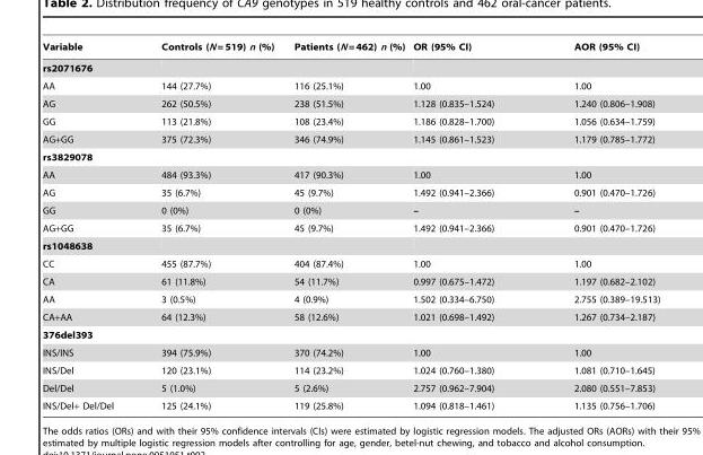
<table><thead><tr><td>Variable</td><td>Controls (N = 519) n (%)</td><td>Patients (N = 462) n (%)</td><td>OR (95% CI)</td><td>AOR (95% CI)</td></tr></thead><tbody><tr><td colspan="5">rs2071676</td></tr><tr><td>AA</td><td>144 (27.7%)</td><td>116 (25.1%)</td><td>1.00</td><td>1.00</td></tr><tr><td>AG</td><td>262 (50.5%)</td><td>238 (51.5%)</td><td>1.128 (0.835–1.524)</td><td>1.240 (0.806–1.908)</td></tr><tr><td>GG</td><td>113 (21.8%)</td><td>108 (23.4%)</td><td>1.186 (0.828–1.700)</td><td>1.056 (0.634–1.759)</td></tr><tr><td>AG+GG</td><td>375 (72.3%)</td><td>346 (74.9%)</td><td>1.145 (0.861–1.523)</td><td>1.179 (0.785–1.772)</td></tr><tr><td colspan="5">rs3829078</td></tr><tr><td>AA</td><td>484 (93.3%)</td><td>417 (90.3%)</td><td>1.00</td><td>1.00</td></tr><tr><td>AG</td><td>35 (6.7%)</td><td>45 (9.7%)</td><td>1.492 (0.941–2.366)</td><td>0.901 (0.470–1.726)</td></tr><tr><td>GG</td><td>0 (0%)</td><td>0 (0%)</td><td>–</td><td>–</td></tr><tr><td>AG+GG</td><td>35 (6.7%)</td><td>45 (9.7%)</td><td>1.492 (0.941–2.366)</td><td>0.901 (0.470–1.726)</td></tr><tr><td colspan="5">rs1048638</td></tr><tr><td>CC</td><td>455 (87.7%)</td><td>404 (87.4%)</td><td>1.00</td><td>1.00</td></tr><tr><td>CA</td><td>61 (11.8%)</td><td>54 (11.7%)</td><td>0.997 (0.675–1.472)</td><td>1.197 (0.682–2.102)</td></tr><tr><td>AA</td><td>3 (0.5%)</td><td>4 (0.9%)</td><td>1.502 (0.334–6.750)</td><td>2.755 (0.389–19.513)</td></tr><tr><td>CA+AA</td><td>64 (12.3%)</td><td>58 (12.6%)</td><td>1.021 (0.698–1.492)</td><td>1.267 (0.734–2.187)</td></tr><tr><td colspan="5">376del393</td></tr><tr><td>INS/INS</td><td>394 (75.9%)</td><td>370 (74.2%)</td><td>1.00</td><td>1.00</td></tr><tr><td>INS/Del</td><td>120 (23.1%)</td><td>114 (23.2%)</td><td>1.024 (0.760–1.380)</td><td>1.081 (0.710–1.645)</td></tr><tr><td>Del/Del</td><td>5 (1.0%)</td><td>5 (2.6%)</td><td>2.757 (0.962–7.904)</td><td>2.080 (0.551–7.853)</td></tr><tr><td>INS/Del+ Del/Del</td><td>125 (24.1%)</td><td>119 (25.8%)</td><td>1.094 (0.818–1.461)</td><td>1.135 (0.756–1.706)</td></tr></tbody></table>